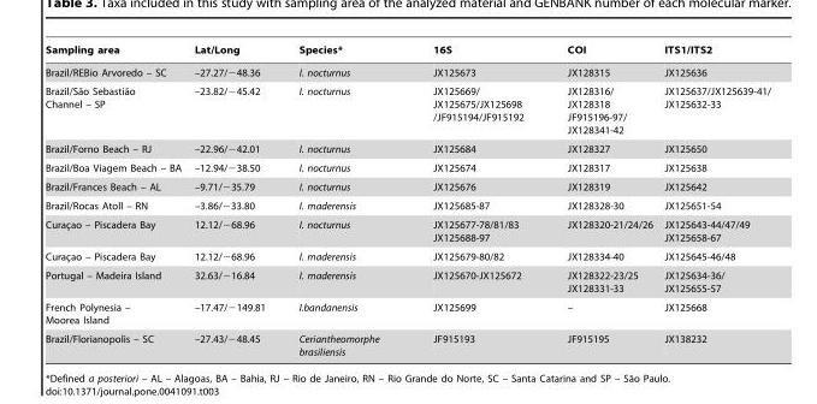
<table><thead><tr><td>Sampling area</td><td>Lat/Long</td><td>Species*</td><td>16S</td><td>COI</td><td>ITS1/ITS2</td></tr></thead><tbody><tr><td>Brazil/REBio Arvoredo – SC</td><td>–27.27/−48.36</td><td>I. nocturnus</td><td>JX125673</td><td>JX128315</td><td>JX125636</td></tr><tr><td>Brazil/Sa˜o Sebastia˜o Channel – SP</td><td>–23.82/−45.42</td><td>I. nocturnus</td><td>JX125669/ JX125675/JX125698 /JF915194/JF915192</td><td>JX128316/ JX128318 JF915196-97/ JX128341-42</td><td>JX125637/JX125639-41/ JX125632-33</td></tr><tr><td>Brazil/Forno Beach – RJ</td><td>–22.96/−42.01</td><td>I. nocturnus</td><td>JX125684</td><td>JX128327</td><td>JX125650</td></tr><tr><td>Brazil/Boa Viagem Beach – BA</td><td>–12.94/−38.50</td><td>I. nocturnus</td><td>JX125674</td><td>JX128317</td><td>JX125638</td></tr><tr><td>Brazil/Frances Beach – AL</td><td>–9.71/−35.79</td><td>I. nocturnus</td><td>JX125676</td><td>JX128319</td><td>JX125642</td></tr><tr><td>Brazil/Rocas Atoll – RN</td><td>–3.86/−33.80</td><td>I. maderensis</td><td>JX125685-87</td><td>JX128328-30</td><td>JX125651-54</td></tr><tr><td>Curac¸ao – Piscadera Bay</td><td>12.12/−68.96</td><td>I. nocturnus</td><td>JX125677-78/81/83 JX125688-97</td><td>JX128320-21/24/26</td><td>JX125643-44/47/49 JX125658-67</td></tr><tr><td>Curac¸ao – Piscadera Bay</td><td>12.12/−68.96</td><td>I. maderensis</td><td>JX125679-80/82</td><td>JX128334-40</td><td>JX125645-46/48</td></tr><tr><td>Portugal – Madeira Island</td><td>32.63/−16.84</td><td>I. maderensis</td><td>JX125670-JX125672</td><td>JX128322-23/25 JX128331-33</td><td>JX125634-36/ JX125655-57</td></tr><tr><td>French Polynesia – Moorea Island</td><td>–17.47/−149.81</td><td>I.bandanensis</td><td>JX125699</td><td>–</td><td>JX125668</td></tr><tr><td>Brazil/Florianopolis – SC</td><td>–27.43/−48.45</td><td>Ceriantheomorphe brasiliensis</td><td>JF915193</td><td>JF915195</td><td>JX138232</td></tr></tbody></table>